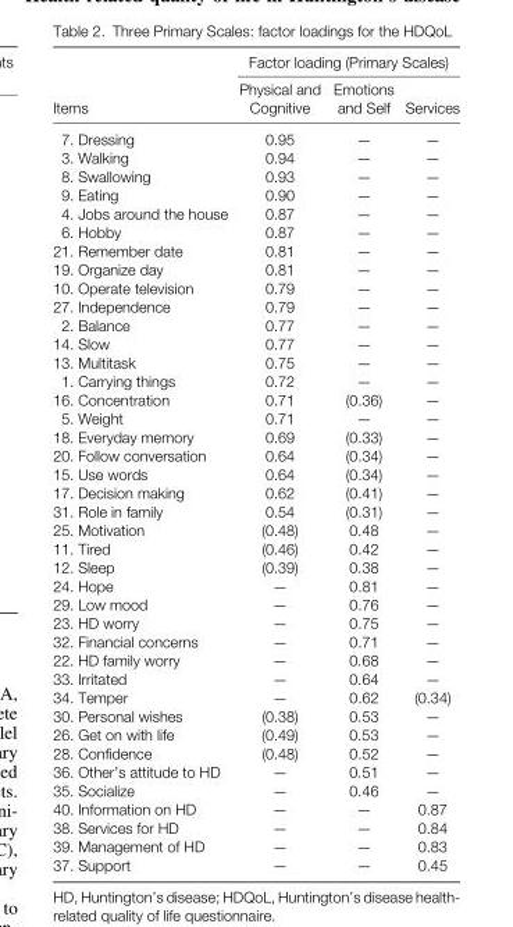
<table><thead><tr><td rowspan="2">Items</td><td colspan="3">Factor loading (Primary Scales)</td></tr><tr><td>Physical and Cognitive</td><td>Emotions and Self</td><td>Services</td></tr></thead><tbody><tr><td>7. Dressing</td><td>0.95</td><td>—</td><td>—</td></tr><tr><td>3. Walking</td><td>0.94</td><td>—</td><td>—</td></tr><tr><td>8. Swallowing</td><td>0.93</td><td>—</td><td>—</td></tr><tr><td>9. Eating</td><td>0.90</td><td>—</td><td>—</td></tr><tr><td>4. Jobs around the house</td><td>0.87</td><td>—</td><td>—</td></tr><tr><td>6. Hobby</td><td>0.87</td><td>—</td><td>—</td></tr><tr><td>21. Remember date</td><td>0.81</td><td>—</td><td>—</td></tr><tr><td>19. Organize day</td><td>0.81</td><td>—</td><td>—</td></tr><tr><td>10. Operate television</td><td>0.79</td><td>—</td><td>—</td></tr><tr><td>27. Independence</td><td>0.79</td><td>—</td><td>—</td></tr><tr><td>2. Balance</td><td>0.77</td><td>—</td><td>—</td></tr><tr><td>14. Slow</td><td>0.77</td><td>—</td><td>—</td></tr><tr><td>13. Multitask</td><td>0.75</td><td>—</td><td>—</td></tr><tr><td>1. Carrying things</td><td>0.72</td><td>—</td><td>—</td></tr><tr><td>16. Concentration</td><td>0.71</td><td>(0.36)</td><td>—</td></tr><tr><td>5. Weight</td><td>0.71</td><td>—</td><td>—</td></tr><tr><td>18. Everyday memory</td><td>0.69</td><td>(0.33)</td><td>—</td></tr><tr><td>20. Follow conversation</td><td>0.64</td><td>(0.34)</td><td>—</td></tr><tr><td>15. Use words</td><td>0.64</td><td>(0.34)</td><td>—</td></tr><tr><td>17. Decision making</td><td>0.62</td><td>(0.41)</td><td>—</td></tr><tr><td>31. Role in family</td><td>0.54</td><td>(0.31)</td><td>—</td></tr><tr><td>25. Motivation</td><td>(0.48)</td><td>0.48</td><td>—</td></tr><tr><td>11. Tired</td><td>(0.46)</td><td>0.42</td><td>—</td></tr><tr><td>12. Sleep</td><td>(0.39)</td><td>0.38</td><td>—</td></tr><tr><td>24. Hope</td><td>—</td><td>0.81</td><td>—</td></tr><tr><td>29. Low mood</td><td>—</td><td>0.76</td><td>—</td></tr><tr><td>23. HD worry</td><td>—</td><td>0.75</td><td>—</td></tr><tr><td>32. Financial concerns</td><td>—</td><td>0.71</td><td>—</td></tr><tr><td>22. HD family worry</td><td>—</td><td>0.68</td><td>—</td></tr><tr><td>33. Irritated</td><td>—</td><td>0.64</td><td>—</td></tr><tr><td>34. Temper</td><td>—</td><td>0.62</td><td>(0.34)</td></tr><tr><td>30. Personal wishes</td><td>(0.38)</td><td>0.53</td><td>—</td></tr><tr><td>26. Get on with life</td><td>(0.49)</td><td>0.53</td><td>—</td></tr><tr><td>28. Confidence</td><td>(0.48)</td><td>0.52</td><td>—</td></tr><tr><td>36. Other’s attitude to HD</td><td>—</td><td>0.51</td><td>—</td></tr><tr><td>35. Socialize</td><td>—</td><td>0.46</td><td>—</td></tr><tr><td>40. Information on HD</td><td>—</td><td>—</td><td>0.87</td></tr><tr><td>38. Services for HD</td><td>—</td><td>—</td><td>0.84</td></tr><tr><td>39. Management of HD</td><td>—</td><td>—</td><td>0.83</td></tr><tr><td>37. Support</td><td>—</td><td>—</td><td>0.45</td></tr></tbody></table>